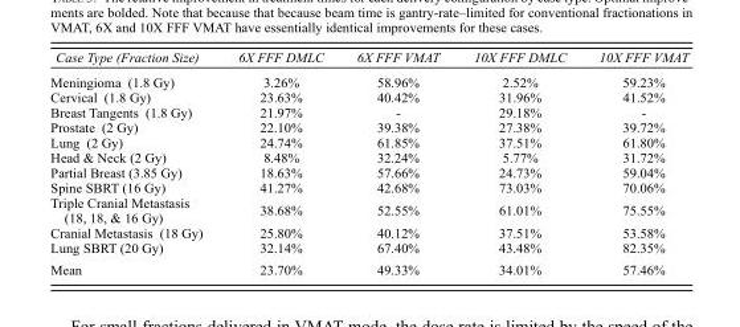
<table><thead><tr><td>Case Type (Fraction Size)</td><td>6X FFF DMLC</td><td>6X FFF VMAT</td><td>10X FFF DMLC</td><td>10X FFF VMAT</td></tr></thead><tbody><tr><td>Meningioma (1.8 Gy)</td><td>3.26%</td><td>58.96%</td><td>2.52%</td><td>59.23%</td></tr><tr><td>Cervical (1.8 Gy)</td><td>23.63%</td><td>40.42%</td><td>31.96%</td><td>41.52%</td></tr><tr><td>Breast Tangents (1.8 Gy)</td><td>21.97%</td><td>-</td><td>29.18%</td><td>-</td></tr><tr><td>Prostate (2 Gy)</td><td>22.10%</td><td>39.38%</td><td>27.38%</td><td>39.72%</td></tr><tr><td>Lung (2 Gy)</td><td>24.74%</td><td>61.85%</td><td>37.51%</td><td>61.80%</td></tr><tr><td>Head &amp; Neck (2 Gy)</td><td>8.48%</td><td>32.24%</td><td>5.77%</td><td>31.72%</td></tr><tr><td>Partial Breast (3.85 Gy)</td><td>18.63%</td><td>57.66%</td><td>24.73%</td><td>59.04%</td></tr><tr><td>Spine SBRT (16 Gy)</td><td>41.27%</td><td>42.68%</td><td>73.03%</td><td>70.06%</td></tr><tr><td>Triple Cranial Metastasis (18, 18, &amp; 16 Gy)</td><td>38.68%</td><td>52.55%</td><td>61.01%</td><td>75.55%</td></tr><tr><td>Cranial Metastasis (18 Gy)</td><td>25.80%</td><td>40.12%</td><td>37.51%</td><td>53.58%</td></tr><tr><td>Lung SBRT (20 Gy)</td><td>32.14%</td><td>67.40%</td><td>43.48%</td><td>82.35%</td></tr><tr><td>Mean</td><td>23.70%</td><td>49.33%</td><td>34.01%</td><td>57.46%</td></tr></tbody></table>